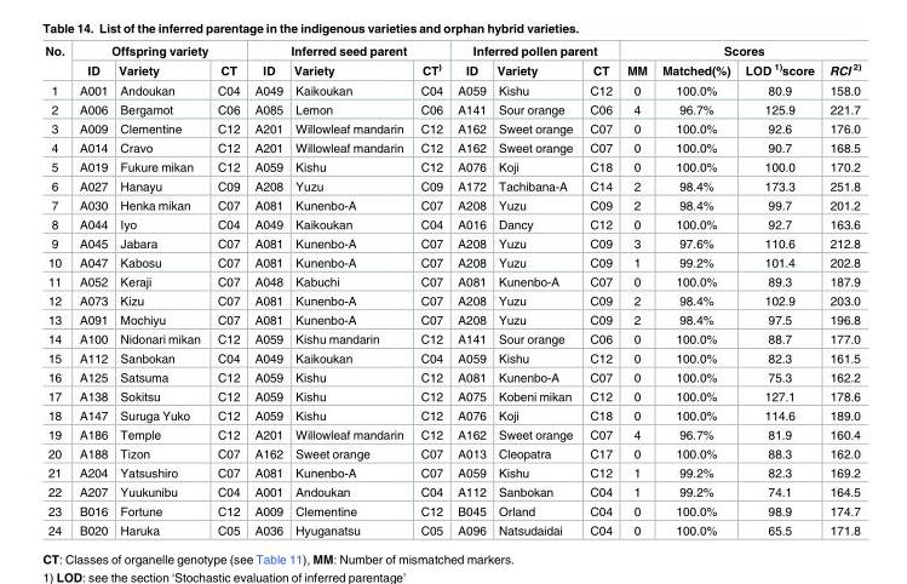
<table><thead><tr><td rowspan="2">No.</td><td colspan="3">Offspring variety</td><td colspan="3">Inferred seed parent</td><td colspan="3">Inferred pollen parent</td><td colspan="4">Scores</td></tr><tr><td>ID</td><td>Variety</td><td>CT</td><td>ID</td><td>Variety</td><td>CT<sup>)</sup></td><td>ID</td><td>Variety</td><td>CT</td><td>MM</td><td>Matched(%)</td><td>LOD <sup>1)</sup>score</td><td>RCI <sup>2)</sup></td></tr></thead><tbody><tr><td>1</td><td>A001</td><td>Andoukan</td><td>C04</td><td>A049</td><td>Kaikoukan</td><td>C04</td><td>A059</td><td>Kishu</td><td>C12</td><td>0</td><td>100.0%</td><td>80.9</td><td>158.0</td></tr><tr><td>2</td><td>A006</td><td>Bergamot</td><td>C06</td><td>A085</td><td>Lemon</td><td>C06</td><td>A141</td><td>Sour orange</td><td>C06</td><td>4</td><td>96.7%</td><td>125.9</td><td>221.7</td></tr><tr><td>3</td><td>A009</td><td>Clementine</td><td>C12</td><td>A201</td><td>Willowleaf mandarin</td><td>C12</td><td>A162</td><td>Sweet orange</td><td>C07</td><td>0</td><td>100.0%</td><td>92.6</td><td>176.0</td></tr><tr><td>4</td><td>A014</td><td>Cravo</td><td>C12</td><td>A201</td><td>Willowleaf mandarin</td><td>C12</td><td>A162</td><td>Sweet orange</td><td>C07</td><td>0</td><td>100.0%</td><td>90.7</td><td>168.5</td></tr><tr><td>5</td><td>A019</td><td>Fukure mikan</td><td>C12</td><td>A059</td><td>Kishu</td><td>C12</td><td>A076</td><td>Koji</td><td>C18</td><td>0</td><td>100.0%</td><td>100.0</td><td>170.2</td></tr><tr><td>6</td><td>A027</td><td>Hanayu</td><td>C09</td><td>A208</td><td>Yuzu</td><td>C09</td><td>A172</td><td>Tachibana-A</td><td>C14</td><td>2</td><td>98.4%</td><td>173.3</td><td>251.8</td></tr><tr><td>7</td><td>A030</td><td>Henka mikan</td><td>C07</td><td>A081</td><td>Kunenbo-A</td><td>C07</td><td>A208</td><td>Yuzu</td><td>C09</td><td>2</td><td>98.4%</td><td>99.7</td><td>201.2</td></tr><tr><td>8</td><td>A044</td><td>Iyo</td><td>C04</td><td>A049</td><td>Kaikoukan</td><td>C04</td><td>A016</td><td>Dancy</td><td>C12</td><td>0</td><td>100.0%</td><td>92.7</td><td>163.6</td></tr><tr><td>9</td><td>A045</td><td>Jabara</td><td>C07</td><td>A081</td><td>Kunenbo-A</td><td>C07</td><td>A208</td><td>Yuzu</td><td>C09</td><td>3</td><td>97.6%</td><td>110.6</td><td>212.8</td></tr><tr><td>10</td><td>A047</td><td>Kabosu</td><td>C07</td><td>A081</td><td>Kunenbo-A</td><td>C07</td><td>A208</td><td>Yuzu</td><td>C09</td><td>1</td><td>99.2%</td><td>101.4</td><td>202.8</td></tr><tr><td>11</td><td>A052</td><td>Keraji</td><td>C07</td><td>A048</td><td>Kabuchi</td><td>C07</td><td>A081</td><td>Kunenbo-A</td><td>C07</td><td>0</td><td>100.0%</td><td>89.3</td><td>187.9</td></tr><tr><td>12</td><td>A073</td><td>Kizu</td><td>C07</td><td>A081</td><td>Kunenbo-A</td><td>C07</td><td>A208</td><td>Yuzu</td><td>C09</td><td>2</td><td>98.4%</td><td>102.9</td><td>203.0</td></tr><tr><td>13</td><td>A091</td><td>Mochiyu</td><td>C07</td><td>A081</td><td>Kunenbo-A</td><td>C07</td><td>A208</td><td>Yuzu</td><td>C09</td><td>2</td><td>98.4%</td><td>97.5</td><td>196.8</td></tr><tr><td>14</td><td>A100</td><td>Nidonari mikan</td><td>C12</td><td>A059</td><td>Kishu mandarin</td><td>C12</td><td>A141</td><td>Sour orange</td><td>C06</td><td>0</td><td>100.0%</td><td>88.7</td><td>177.0</td></tr><tr><td>15</td><td>A112</td><td>Sanbokan</td><td>C04</td><td>A049</td><td>Kaikoukan</td><td>C04</td><td>A059</td><td>Kishu</td><td>C12</td><td>0</td><td>100.0%</td><td>82.3</td><td>161.5</td></tr><tr><td>16</td><td>A125</td><td>Satsuma</td><td>C12</td><td>A059</td><td>Kishu</td><td>C12</td><td>A081</td><td>Kunenbo-A</td><td>C07</td><td>0</td><td>100.0%</td><td>75.3</td><td>162.2</td></tr><tr><td>17</td><td>A138</td><td>Sokitsu</td><td>C12</td><td>A059</td><td>Kishu</td><td>C12</td><td>A075</td><td>Kobeni mikan</td><td>C12</td><td>0</td><td>100.0%</td><td>127.1</td><td>178.6</td></tr><tr><td>18</td><td>A147</td><td>Suruga Yuko</td><td>C12</td><td>A059</td><td>Kishu</td><td>C12</td><td>A076</td><td>Koji</td><td>C18</td><td>0</td><td>100.0%</td><td>114.6</td><td>189.0</td></tr><tr><td>19</td><td>A186</td><td>Temple</td><td>C12</td><td>A201</td><td>Willowleaf mandarin</td><td>C12</td><td>A162</td><td>Sweet orange</td><td>C07</td><td>4</td><td>96.7%</td><td>81.9</td><td>160.4</td></tr><tr><td>20</td><td>A188</td><td>Tizon</td><td>C07</td><td>A162</td><td>Sweet orange</td><td>C07</td><td>A013</td><td>Cleopatra</td><td>C17</td><td>0</td><td>100.0%</td><td>88.3</td><td>162.0</td></tr><tr><td>21</td><td>A204</td><td>Yatsushiro</td><td>C07</td><td>A081</td><td>Kunenbo-A</td><td>C07</td><td>A059</td><td>Kishu</td><td>C12</td><td>1</td><td>99.2%</td><td>82.3</td><td>169.2</td></tr><tr><td>22</td><td>A207</td><td>Yuukunibu</td><td>C04</td><td>A001</td><td>Andoukan</td><td>C04</td><td>A112</td><td>Sanbokan</td><td>C04</td><td>1</td><td>99.2%</td><td>74.1</td><td>164.5</td></tr><tr><td>23</td><td>B016</td><td>Fortune</td><td>C12</td><td>A009</td><td>Clementine</td><td>C12</td><td>B045</td><td>Orland</td><td>C04</td><td>0</td><td>100.0%</td><td>98.9</td><td>174.7</td></tr><tr><td>24</td><td>B020</td><td>Haruka</td><td>C05</td><td>A036</td><td>Hyuganatsu</td><td>C05</td><td>A096</td><td>Natsudaidai</td><td>C04</td><td>0</td><td>100.0%</td><td>65.5</td><td>171.8</td></tr></tbody></table>